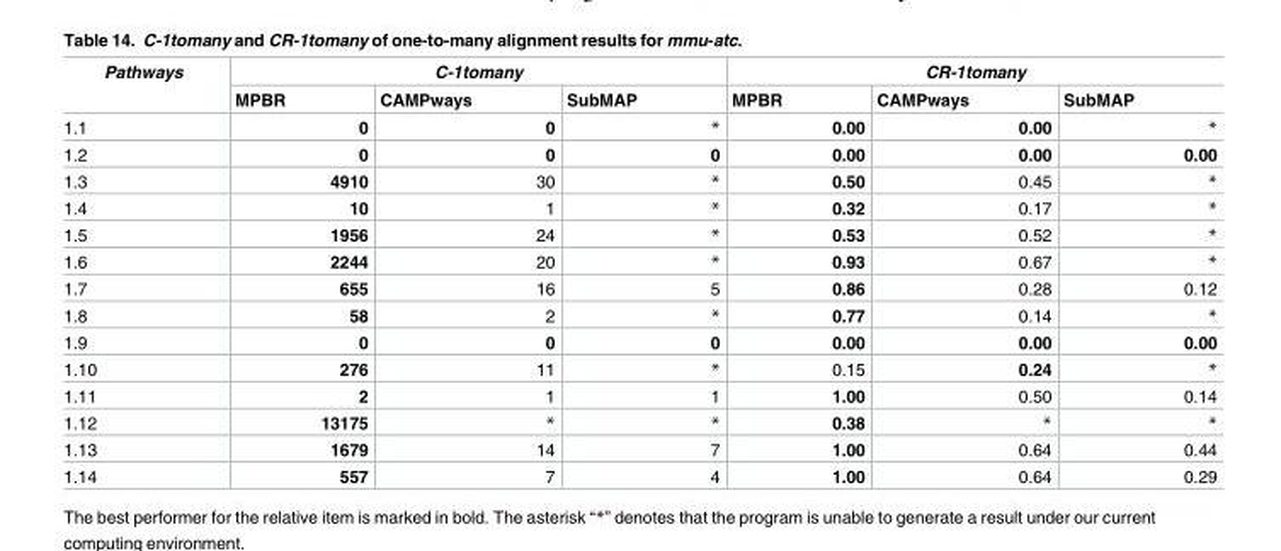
<table><thead><tr><td rowspan="2">Pathways</td><td colspan="3">C-1tomany</td><td colspan="3">CR-1tomany</td></tr><tr><td>MPBR</td><td>CAMPways</td><td>SubMAP</td><td>MPBR</td><td>CAMPways</td><td>SubMAP</td></tr></thead><tbody><tr><td>1.1</td><td>0</td><td>0</td><td>*</td><td>0.00</td><td>0.00</td><td>*</td></tr><tr><td>1.2</td><td>0</td><td>0</td><td>0</td><td>0.00</td><td>0.00</td><td>0.00</td></tr><tr><td>1.3</td><td>4910</td><td>30</td><td>*</td><td>0.50</td><td>0.45</td><td>*</td></tr><tr><td>1.4</td><td>10</td><td>1</td><td>*</td><td>0.32</td><td>0.17</td><td>*</td></tr><tr><td>1.5</td><td>1956</td><td>24</td><td>*</td><td>0.53</td><td>0.52</td><td>*</td></tr><tr><td>1.6</td><td>2244</td><td>20</td><td>*</td><td>0.93</td><td>0.67</td><td>*</td></tr><tr><td>1.7</td><td>655</td><td>16</td><td>5</td><td>0.86</td><td>0.28</td><td>0.12</td></tr><tr><td>1.8</td><td>58</td><td>2</td><td>*</td><td>0.77</td><td>0.14</td><td>*</td></tr><tr><td>1.9</td><td>0</td><td>0</td><td>0</td><td>0.00</td><td>0.00</td><td>0.00</td></tr><tr><td>1.10</td><td>276</td><td>11</td><td>*</td><td>0.15</td><td>0.24</td><td>*</td></tr><tr><td>1.11</td><td>2</td><td>1</td><td>1</td><td>1.00</td><td>0.50</td><td>0.14</td></tr><tr><td>1.12</td><td>13175</td><td>*</td><td>*</td><td>0.38</td><td>*</td><td>*</td></tr><tr><td>1.13</td><td>1679</td><td>14</td><td>7</td><td>1.00</td><td>0.64</td><td>0.44</td></tr><tr><td>1.14</td><td>557</td><td>7</td><td>4</td><td>1.00</td><td>0.64</td><td>0.29</td></tr></tbody></table>